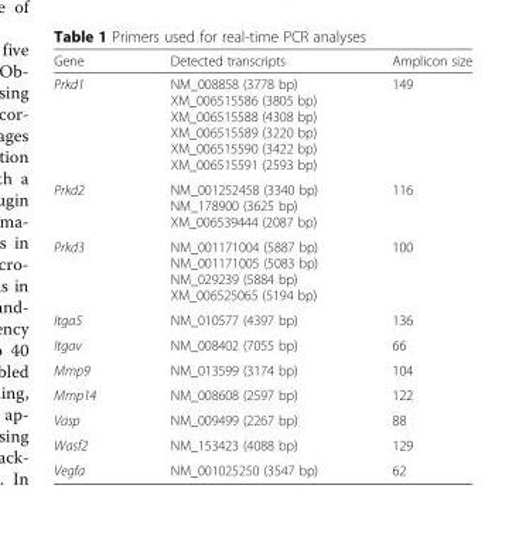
<table><thead><tr><td>Gene</td><td>Detected transcripts</td><td>Amplicon size</td></tr></thead><tbody><tr><td>Prkd1</td><td>NM_008858 (3778 bp) XM_006515586 (3805 bp) XM_006515588 (4308 bp) XM_006515589 (3220 bp) XM_006515590 (3422 bp) XM_006515591 (2593 bp)</td><td>149</td></tr><tr><td>Prkd2</td><td>NM_001252458 (3340 bp) NM_178900 (3625 bp) XM_006539444 (2087 bp)</td><td>116</td></tr><tr><td>Prkd3</td><td>NM_001171004 (5887 bp) NM_001171005 (5083 bp) NM_029239 (5884 bp) XM_006525065 (5194 bp)</td><td>100</td></tr><tr><td>Itga5</td><td>NM_010577 (4397 bp)</td><td>136</td></tr><tr><td>Itgav</td><td>NM_008402 (7055 bp)</td><td>66</td></tr><tr><td>Mmp9</td><td>NM_013599 (3174 bp)</td><td>104</td></tr><tr><td>Mmp14</td><td>NM_008608 (2597 bp)</td><td>122</td></tr><tr><td>Vasp</td><td>NM_009499 (2267 bp)</td><td>88</td></tr><tr><td>Wasf2</td><td>NM_153423 (4088 bp)</td><td>129</td></tr><tr><td>Vegfa</td><td>NM_001025250 (3547 bp)</td><td>62</td></tr></tbody></table>